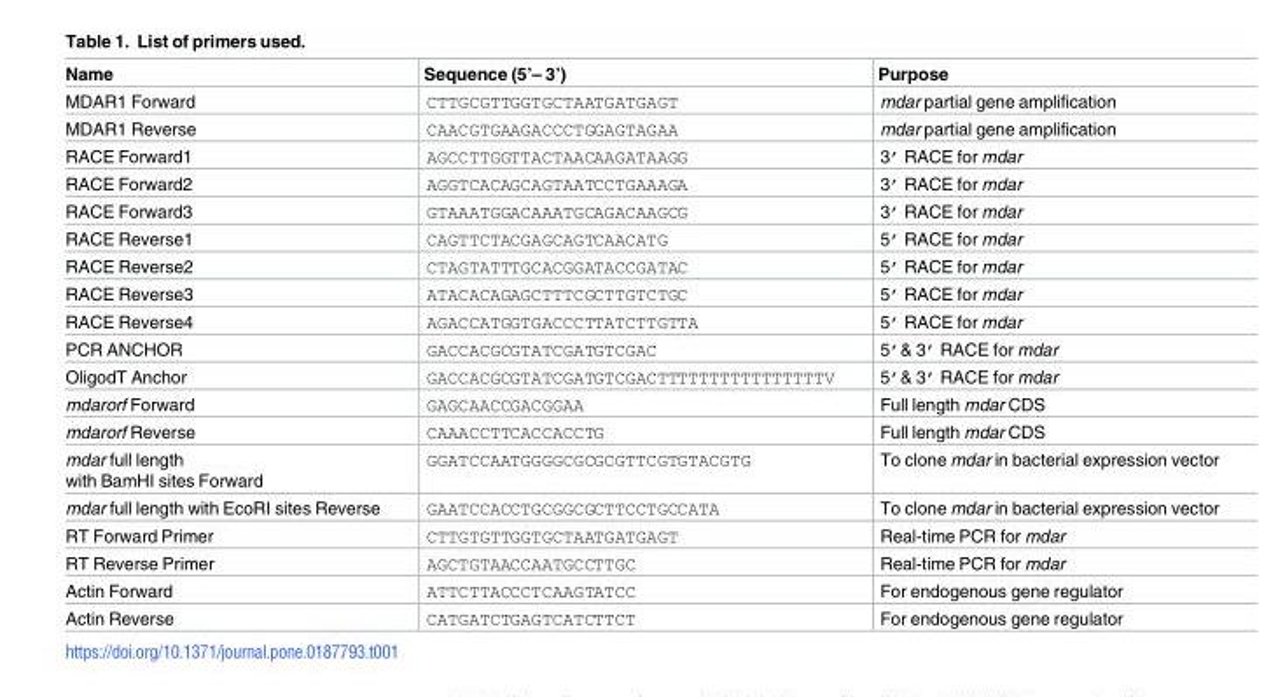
<table><thead><tr><td>Name</td><td>Sequence (5’– 3’)</td><td>Purpose</td></tr></thead><tbody><tr><td>MDAR1 Forward</td><td>CTTGCGTTGGTGCTAATGATGAGT</td><td>mdar partial gene amplification</td></tr><tr><td>MDAR1 Reverse</td><td>CAACGTGAAGACCCTGGAGTAGAA</td><td>mdar partial gene amplification</td></tr><tr><td>RACE Forward1</td><td>AGCCTTGGTTACTAACAAGATAAGG</td><td>3’ RACE for mdar</td></tr><tr><td>RACE Forward2</td><td>AGGTCACAGCAGTAATCCTGAAAGA</td><td>3’ RACE for mdar</td></tr><tr><td>RACE Forward3</td><td>GTAAATGGACAAATGCAGACAAGCG</td><td>3’ RACE for mdar</td></tr><tr><td>RACE Reverse1</td><td>CAGTTCTACGAGCAGTCAACATG</td><td>5’ RACE for mdar</td></tr><tr><td>RACE Reverse2</td><td>CTAGTATTTGCACGGATACCGATAC</td><td>5’ RACE for mdar</td></tr><tr><td>RACE Reverse3</td><td>ATACACAGAGCTTTCGCTTGTCTGC</td><td>5’ RACE for mdar</td></tr><tr><td>RACE Reverse4</td><td>AGACCATGGTGACCCTTATCTTGTTA</td><td>5’ RACE for mdar</td></tr><tr><td>PCR ANCHOR</td><td>GACCACGCGTATCGATGTCGAC</td><td>5’&amp; 3’ RACE for mdar</td></tr><tr><td>OligodT Anchor</td><td>GACCACGCGTATCGATGTCGACTTTTTTTTTTTTTTTTV</td><td>5’&amp; 3’ RACE for mdar</td></tr><tr><td>mdarorf Forward</td><td>GAGCAACCGACGGAA</td><td>Full length mdar CDS</td></tr><tr><td>mdarorf Reverse</td><td>CAAACCTTCACCACCTG</td><td>Full length mdar CDS</td></tr><tr><td>mdar full length with BamHI sites Forward</td><td>GGATCCAATGGGGCGCGCGTTCGTGTACGTG</td><td>To clone mdar in bacterial expression vector</td></tr><tr><td>mdar full length with EcoRI sites Reverse</td><td>GAATCCACCTGCGGCGCTTCCTGCCATA</td><td>To clone mdar in bacterial expression vector</td></tr><tr><td>RT Forward Primer</td><td>CTTGTGTTGGTGCTAATGATGAGT</td><td>Real-time PCR for mdar</td></tr><tr><td>RT Reverse Primer</td><td>AGCTGTAACCAATGCCTTGC</td><td>Real-time PCR for mdar</td></tr><tr><td>Actin Forward</td><td>ATTCTTACCCTCAAGTATCC</td><td>For endogenous gene regulator</td></tr><tr><td>Actin Reverse</td><td>CATGATCTGAGTCATCTTCT</td><td>For endogenous gene regulator</td></tr></tbody></table>